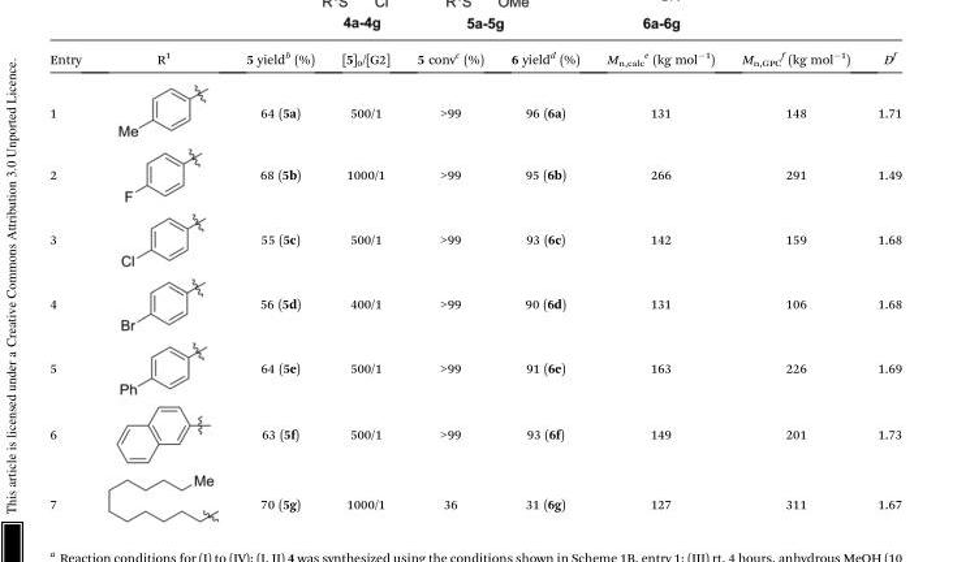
<table><thead><tr><td>Entry</td><td>R<sup>1</sup></td><td>5 yield<sup>b</sup> (%)</td><td>[5]<sub>0</sub>/[G2]</td><td>5 conv<sup>c</sup> (%)</td><td>6 yield<sup>d</sup> (%)</td><td>M<sub>n,calc</sub> <sup>e</sup> (kg mol<sup>–1</sup>)</td><td>M<sub>n,GPC</sub> <sup>f</sup> (kg mol<sup>–1</sup>)</td><td>Đ<sup>f</sup></td></tr></thead><tbody><tr><td>1</td><td></td><td>64 (5a)</td><td>500/1</td><td>&gt;99</td><td>96 (6a)</td><td>131</td><td>148</td><td>1.71</td></tr><tr><td>2</td><td></td><td>68 (5b)</td><td>1000/1</td><td>&gt;99</td><td>95 (6b)</td><td>266</td><td>291</td><td>1.49</td></tr><tr><td>3</td><td></td><td>55 (5c)</td><td>500/1</td><td>&gt;99</td><td>93 (6c)</td><td>142</td><td>159</td><td>1.68</td></tr><tr><td>4</td><td></td><td>56 (5d)</td><td>400/1</td><td>&gt;99</td><td>90 (6d)</td><td>131</td><td>106</td><td>1.68</td></tr><tr><td>5</td><td></td><td>64 (5e)</td><td>500/1</td><td>&gt;99</td><td>91 (6e)</td><td>163</td><td>226</td><td>1.69</td></tr><tr><td>6</td><td></td><td>63 (5f)</td><td>500/1</td><td>&gt;99</td><td>93 (6f)</td><td>149</td><td>201</td><td>1.73</td></tr><tr><td>7</td><td></td><td>70 (5g)</td><td>1000/1</td><td>36</td><td>31 (6g)</td><td>127</td><td>311</td><td>1.67</td></tr></tbody></table>